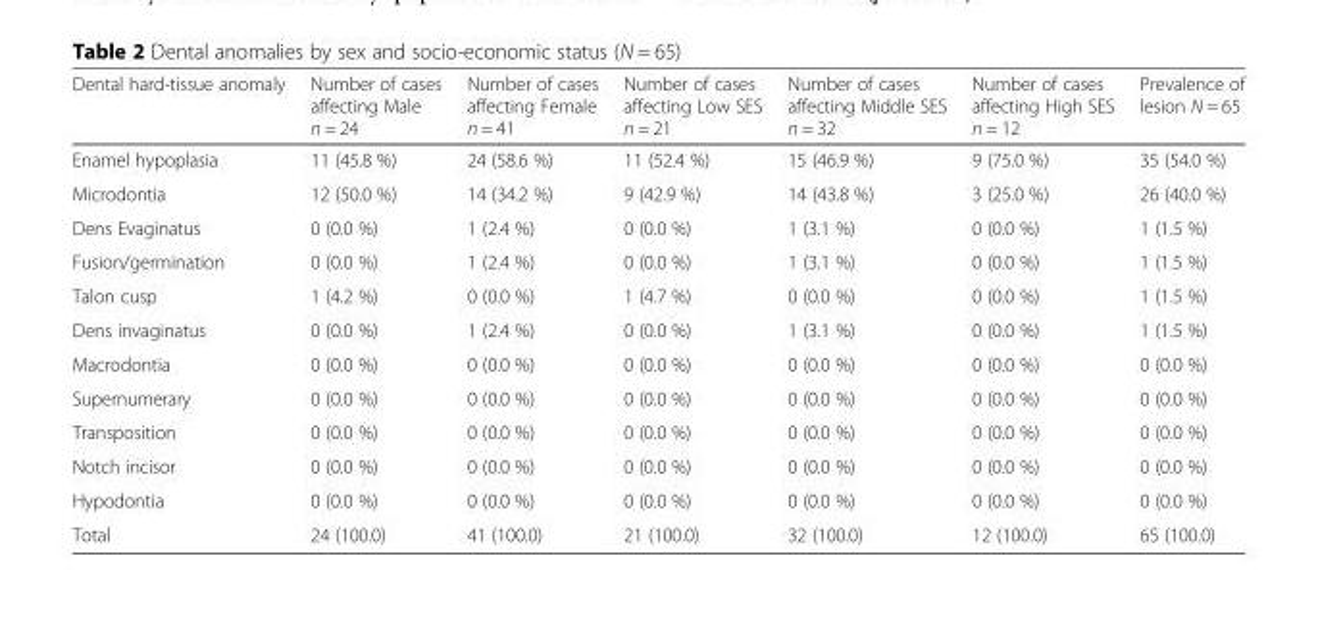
<table><thead><tr><td>Dental hard-tissue anomaly</td><td>Number of cases affecting Male n = 24</td><td>Number of cases affecting Female n = 41</td><td>Number of cases affecting Low SES n = 21</td><td>Number of cases affecting Middle SES n = 32</td><td>Number of cases affecting High SES n = 12</td><td>Prevalence of lesion N = 65</td></tr></thead><tbody><tr><td>Enamel hypoplasia</td><td>11 (45.8 %)</td><td>24 (58.6 %)</td><td>11 (52.4 %)</td><td>15 (46.9 %)</td><td>9 (75.0 %)</td><td>35 (54.0 %)</td></tr><tr><td>Microdontia</td><td>12 (50.0 %)</td><td>14 (34.2 %)</td><td>9 (42.9 %)</td><td>14 (43.8 %)</td><td>3 (25.0 %)</td><td>26 (40.0 %)</td></tr><tr><td>Dens Evaginatus</td><td>0 (0.0 %)</td><td>1 (2.4 %)</td><td>0 (0.0 %)</td><td>1 (3.1 %)</td><td>0 (0.0 %)</td><td>1 (1.5 %)</td></tr><tr><td>Fusion/germination</td><td>0 (0.0 %)</td><td>1 (2.4 %)</td><td>0 (0.0 %)</td><td>1 (3.1 %)</td><td>0 (0.0 %)</td><td>1 (1.5 %)</td></tr><tr><td>Talon cusp</td><td>1 (4.2 %)</td><td>0 (0.0 %)</td><td>1 (4.7 %)</td><td>0 (0.0 %)</td><td>0 (0.0 %)</td><td>1 (1.5 %)</td></tr><tr><td>Dens invaginatus</td><td>0 (0.0 %)</td><td>1 (2.4 %)</td><td>0 (0.0 %)</td><td>1 (3.1 %)</td><td>0 (0.0 %)</td><td>1 (1.5 %)</td></tr><tr><td>Macrodontia</td><td>0 (0.0 %)</td><td>0 (0.0 %)</td><td>0 (0.0 %)</td><td>0 (0.0 %)</td><td>0 (0.0 %)</td><td>0 (0.0 %)</td></tr><tr><td>Supernumerary</td><td>0 (0.0 %)</td><td>0 (0.0 %)</td><td>0 (0.0 %)</td><td>0 (0.0 %)</td><td>0 (0.0 %)</td><td>0 (0.0 %)</td></tr><tr><td>Transposition</td><td>0 (0.0 %)</td><td>0 (0.0 %)</td><td>0 (0.0 %)</td><td>0 (0.0 %)</td><td>0 (0.0 %)</td><td>0 (0.0 %)</td></tr><tr><td>Notch incisor</td><td>0 (0.0 %)</td><td>0 (0.0 %)</td><td>0 (0.0 %)</td><td>0 (0.0 %)</td><td>0 (0.0 %)</td><td>0 (0.0 %)</td></tr><tr><td>Hypodontia</td><td>0 (0.0 %)</td><td>0 (0.0 %)</td><td>0 (0.0 %)</td><td>0 (0.0 %)</td><td>0 (0.0 %)</td><td>0 (0.0 %)</td></tr><tr><td>Total</td><td>24 (100.0)</td><td>41 (100.0)</td><td>21 (100.0)</td><td>32 (100.0)</td><td>12 (100.0)</td><td>65 (100.0)</td></tr></tbody></table>